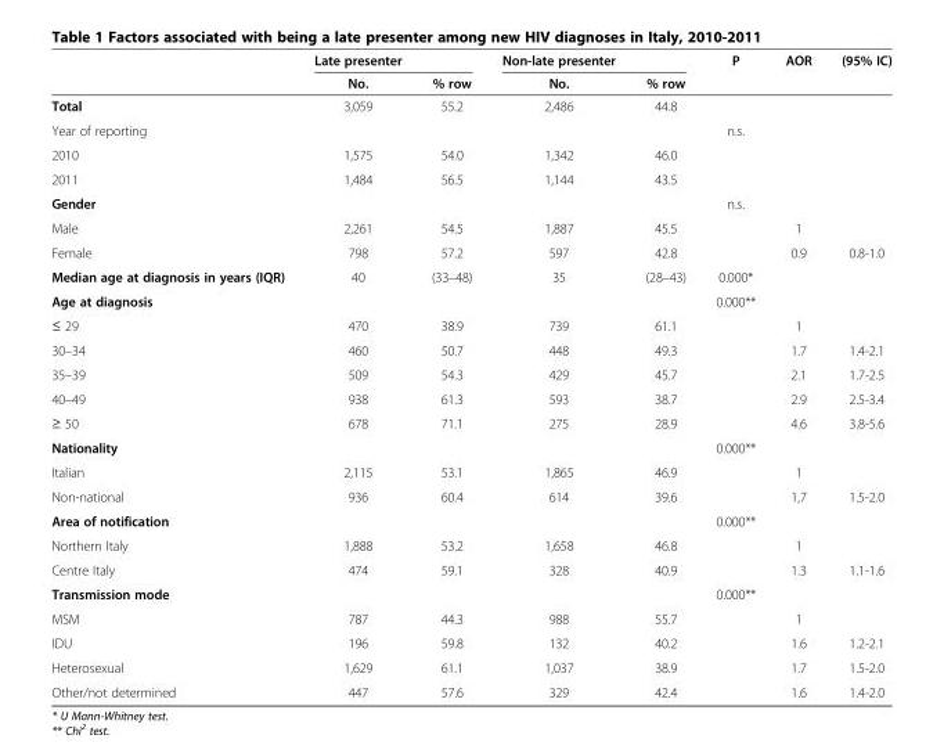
<table><thead><tr><td rowspan="2"></td><td rowspan="2">Late presenter No.</td><td rowspan="2">% row</td><td rowspan="2">Non-late presenter No.</td><td rowspan="2">% row</td><td rowspan="2">P</td><td rowspan="2">AOR</td><td rowspan="2">(95% IC)</td></tr><tr></tr></thead><tbody><tr><td>Total</td><td>3,059</td><td>55.2</td><td>2,486</td><td>44.8</td><td></td><td></td><td></td></tr><tr><td>Year of reporting</td><td></td><td></td><td></td><td></td><td>n.s.</td><td></td><td></td></tr><tr><td>2010</td><td>1,575</td><td>54.0</td><td>1,342</td><td>46.0</td><td></td><td></td><td></td></tr><tr><td>2011</td><td>1,484</td><td>56.5</td><td>1,144</td><td>43.5</td><td></td><td></td><td></td></tr><tr><td>Gender</td><td></td><td></td><td></td><td></td><td>n.s.</td><td></td><td></td></tr><tr><td>Male</td><td>2,261</td><td>54.5</td><td>1,887</td><td>45.5</td><td></td><td>1</td><td></td></tr><tr><td>Female</td><td>798</td><td>57.2</td><td>597</td><td>42.8</td><td></td><td>0.9</td><td>0.8-1.0</td></tr><tr><td>Median age at diagnosis in years (IQR)</td><td>40</td><td>(33–48)</td><td>35</td><td>(28–43)</td><td>0.000*</td><td></td><td></td></tr><tr><td>Age at diagnosis</td><td></td><td></td><td></td><td></td><td>0.000**</td><td></td><td></td></tr><tr><td>≤ 29</td><td>470</td><td>38.9</td><td>739</td><td>61.1</td><td></td><td>1</td><td></td></tr><tr><td>30–34</td><td>460</td><td>50.7</td><td>448</td><td>49.3</td><td></td><td>1.7</td><td>1.4-2.1</td></tr><tr><td>35–39</td><td>509</td><td>54.3</td><td>429</td><td>45.7</td><td></td><td>2.1</td><td>1.7-2.5</td></tr><tr><td>40–49</td><td>938</td><td>61.3</td><td>593</td><td>38.7</td><td></td><td>2.9</td><td>2.5-3.4</td></tr><tr><td>≥ 50</td><td>678</td><td>71.1</td><td>275</td><td>28.9</td><td></td><td>4.6</td><td>3.8-5.6</td></tr><tr><td>Nationality</td><td></td><td></td><td></td><td></td><td>0.000**</td><td></td><td></td></tr><tr><td>Italian</td><td>2,115</td><td>53.1</td><td>1,865</td><td>46.9</td><td></td><td>1</td><td></td></tr><tr><td>Non-national</td><td>936</td><td>60.4</td><td>614</td><td>39.6</td><td></td><td>1,7</td><td>1.5-2.0</td></tr><tr><td>Area of notification</td><td></td><td></td><td></td><td></td><td>0.000**</td><td></td><td></td></tr><tr><td>Northern Italy</td><td>1,888</td><td>53.2</td><td>1,658</td><td>46.8</td><td></td><td>1</td><td></td></tr><tr><td>Centre Italy</td><td>474</td><td>59.1</td><td>328</td><td>40.9</td><td></td><td>1.3</td><td>1.1-1.6</td></tr><tr><td>Transmission mode</td><td></td><td></td><td></td><td></td><td>0.000**</td><td></td><td></td></tr><tr><td>MSM</td><td>787</td><td>44.3</td><td>988</td><td>55.7</td><td></td><td>1</td><td></td></tr><tr><td>IDU</td><td>196</td><td>59.8</td><td>132</td><td>40.2</td><td></td><td>1.6</td><td>1.2-2.1</td></tr><tr><td>Heterosexual</td><td>1,629</td><td>61.1</td><td>1,037</td><td>38.9</td><td></td><td>1.7</td><td>1.5-2.0</td></tr><tr><td>Other/not determined</td><td>447</td><td>57.6</td><td>329</td><td>42.4</td><td></td><td>1.6</td><td>1.4-2.0</td></tr></tbody></table>